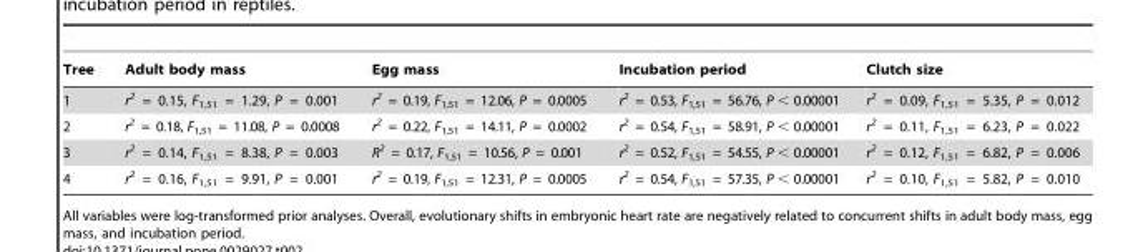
<table><thead><tr><td>Tree</td><td>Adult body mass</td><td>Egg mass</td><td>Incubation period</td><td>Clutch size</td></tr></thead><tbody><tr><td>1</td><td>r<sup>2</sup> = 0.15, F<sub>1,51</sub> = 1.29, P = 0.001</td><td>r<sup>2</sup> = 0.19, F<sub>1,51</sub> = 12.06, P = 0.0005</td><td>r<sup>2</sup> = 0.53, F<sub>1,51</sub> = 56.76, P &lt; 0.00001</td><td>r<sup>2</sup> = 0.09, F<sub>1,51</sub> = 5.35, P = 0.012</td></tr><tr><td>2</td><td>r<sup>2</sup> = 0.18, F<sub>1,51</sub> = 11.08, P = 0.0008</td><td>r<sup>2</sup> = 0.22, F<sub>1,51</sub> = 14.11, P = 0.0002</td><td>r<sup>2</sup> = 0.54, F<sub>1,51</sub> = 58.91, P &lt; 0.00001</td><td>r<sup>2</sup> = 0.11, F<sub>1,51</sub> = 6.23, P = 0.022</td></tr><tr><td>3</td><td>r<sup>2</sup> = 0.14, F<sub>1,51</sub> = 8.38, P = 0.003</td><td>R<sup>2</sup> = 0.17, F<sub>1,51</sub> = 10.56, P = 0.001</td><td>r<sup>2</sup> = 0.52, F<sub>1,51</sub> = 54.55, P &lt; 0.00001</td><td>r<sup>2</sup> = 0.12, F<sub>1,51</sub> = 6.82, P = 0.006</td></tr><tr><td>4</td><td>r<sup>2</sup> = 0.16, F<sub>1,51</sub> = 9.91, P = 0.001</td><td>r<sup>2</sup> = 0.19, F<sub>1,51</sub> = 12.31, P = 0.0005</td><td>r<sup>2</sup> = 0.54, F<sub>1,51</sub> = 57.35, P &lt; 0.00001</td><td>r<sup>2</sup> = 0.10, F<sub>1,51</sub> = 5.82, P = 0.010</td></tr></tbody></table>